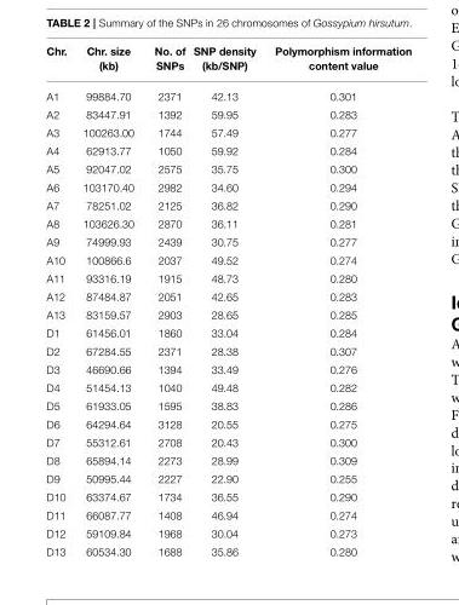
<table><thead><tr><td>Chr.</td><td>Chr. size (kb)</td><td>No. of SNPs</td><td>SNP density (kb/SNP)</td><td>Polymorphism information content value</td></tr></thead><tbody><tr><td>A1</td><td>99884.70</td><td>2371</td><td>42.13</td><td>0.301</td></tr><tr><td>A2</td><td>83447.91</td><td>1392</td><td>59.95</td><td>0.283</td></tr><tr><td>A3</td><td>100263.00</td><td>1744</td><td>57.49</td><td>0.277</td></tr><tr><td>A4</td><td>62913.77</td><td>1050</td><td>59.92</td><td>0.284</td></tr><tr><td>A5</td><td>92047.02</td><td>2575</td><td>35.75</td><td>0.300</td></tr><tr><td>A6</td><td>103170.40</td><td>2982</td><td>34.60</td><td>0.294</td></tr><tr><td>A7</td><td>78251.02</td><td>2125</td><td>36.82</td><td>0.290</td></tr><tr><td>A8</td><td>103626.30</td><td>2870</td><td>36.11</td><td>0.281</td></tr><tr><td>A9</td><td>74999.93</td><td>2439</td><td>30.75</td><td>0.277</td></tr><tr><td>A10</td><td>100866.6</td><td>2037</td><td>49.52</td><td>0.274</td></tr><tr><td>A11</td><td>93316.19</td><td>1915</td><td>48.73</td><td>0.280</td></tr><tr><td>A12</td><td>87484.87</td><td>2051</td><td>42.65</td><td>0.283</td></tr><tr><td>A13</td><td>83159.57</td><td>2903</td><td>28.65</td><td>0.285</td></tr><tr><td>D1</td><td>61456.01</td><td>1860</td><td>33.04</td><td>0.284</td></tr><tr><td>D2</td><td>67284.55</td><td>2371</td><td>28.38</td><td>0.307</td></tr><tr><td>D3</td><td>46690.66</td><td>1394</td><td>33.49</td><td>0.276</td></tr><tr><td>D4</td><td>51454.13</td><td>1040</td><td>49.48</td><td>0.282</td></tr><tr><td>D5</td><td>61933.05</td><td>1595</td><td>38.83</td><td>0.286</td></tr><tr><td>D6</td><td>64294.64</td><td>3128</td><td>20.55</td><td>0.275</td></tr><tr><td>D7</td><td>55312.61</td><td>2708</td><td>20.43</td><td>0.300</td></tr><tr><td>D8</td><td>65894.14</td><td>2273</td><td>28.99</td><td>0.309</td></tr><tr><td>D9</td><td>50995.44</td><td>2227</td><td>22.90</td><td>0.255</td></tr><tr><td>D10</td><td>63374.67</td><td>1734</td><td>36.55</td><td>0.290</td></tr><tr><td>D11</td><td>66087.77</td><td>1408</td><td>46.94</td><td>0.274</td></tr><tr><td>D12</td><td>59109.84</td><td>1968</td><td>30.04</td><td>0.273</td></tr><tr><td>D13</td><td>60534.30</td><td>1688</td><td>35.86</td><td>0.280</td></tr></tbody></table>